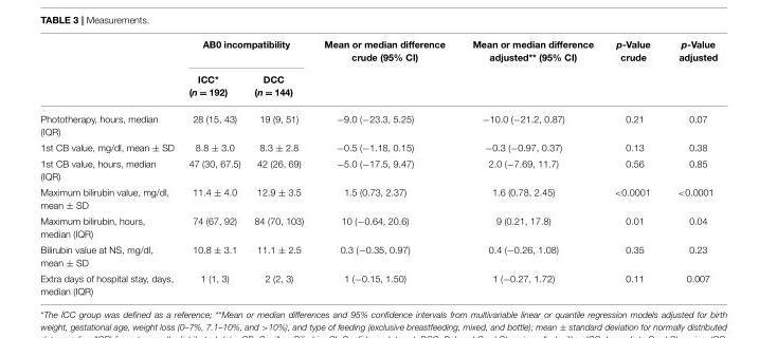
<table><thead><tr><td rowspan="2"></td><td colspan="2">AB0 incompatibility</td><td rowspan="2">Mean or median difference crude (95% CI)</td><td rowspan="2">Mean or median difference adjusted** (95% CI)</td><td rowspan="2">p-Value crude</td><td rowspan="2">p-Value adjusted</td></tr><tr><td>ICC* (n = 192)</td><td>DCC (n = 144)</td></tr></thead><tbody><tr><td>Phototherapy, hours, median (IQR)</td><td>28 (15, 43)</td><td>19 (9, 51)</td><td>−9.0 (−23.3, 5.25)</td><td>−10.0 (−21.2, 0.87)</td><td>0.21</td><td>0.07</td></tr><tr><td>1st CB value, mg/dl, mean ± SD</td><td>8.8 ± 3.0</td><td>8.3 ± 2.8</td><td>−0.5 (−1.18, 0.15)</td><td>−0.3 (−0.97, 0.37)</td><td>0.13</td><td>0.38</td></tr><tr><td>1st CB value, hours, median (IQR)</td><td>47 (30, 67.5)</td><td>42 (26, 69)</td><td>−5.0 (−17.5, 9.47)</td><td>2.0 (−7.69, 11.7)</td><td>0.56</td><td>0.85</td></tr><tr><td>Maximum bilirubin value, mg/dl, mean ± SD</td><td>11.4 ± 4.0</td><td>12.9 ± 3.5</td><td>1.5 (0.73, 2.37)</td><td>1.6 (0.78, 2.45)</td><td>&lt;0.0001</td><td>&lt;0.0001</td></tr><tr><td>Maximum bilirubin, hours, median (IQR)</td><td>74 (67, 92)</td><td>84 (70, 103)</td><td>10 (−0.64, 20.6)</td><td>9 (0.21, 17.8)</td><td>0.01</td><td>0.04</td></tr><tr><td>Bilirubin value at NS, mg/dl, mean ± SD</td><td>10.8 ± 3.1</td><td>11.1 ± 2.5</td><td>0.3 (−0.35, 0.97)</td><td>0.4 (−0.26, 1.08)</td><td>0.35</td><td>0.23</td></tr><tr><td>Extra days of hospital stay, days, median (IQR)</td><td>1 (1, 3)</td><td>2 (2, 3)</td><td>1 (−0.15, 1.50)</td><td>1 (−0.27, 1.72)</td><td>0.11</td><td>0.007</td></tr></tbody></table>